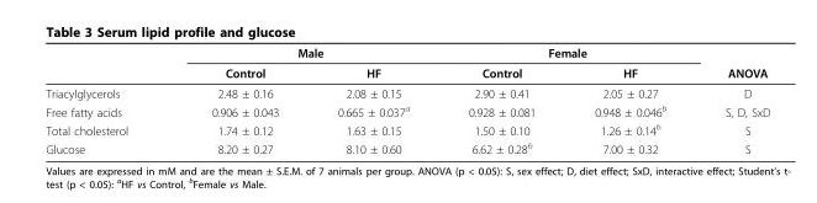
<table><thead><tr><td rowspan="2"></td><td colspan="2">Male</td><td colspan="2">Female</td><td rowspan="2">ANOVA</td></tr><tr><td>Control</td><td>HF</td><td>Control</td><td>HF</td></tr></thead><tbody><tr><td>Triacylglycerols</td><td>2.48 ± 0.16</td><td>2.08 ± 0.15</td><td>2.90 ± 0.41</td><td>2.05 ± 0.27</td><td>D</td></tr><tr><td>Free fatty acids</td><td>0.906 ± 0.043</td><td>0.665 ± 0.037<sup>a</sup></td><td>0.928 ± 0.081</td><td>0.948 ± 0.046<sup>b</sup></td><td>S, D, SxD</td></tr><tr><td>Total cholesterol</td><td>1.74 ± 0.12</td><td>1.63 ± 0.15</td><td>1.50 ± 0.10</td><td>1.26 ± 0.14<sup>b</sup></td><td>S</td></tr><tr><td>Glucose</td><td>8.20 ± 0.27</td><td>8.10 ± 0.60</td><td>6.62 ± 0.28<sup>b</sup></td><td>7.00 ± 0.32</td><td>S</td></tr></tbody></table>